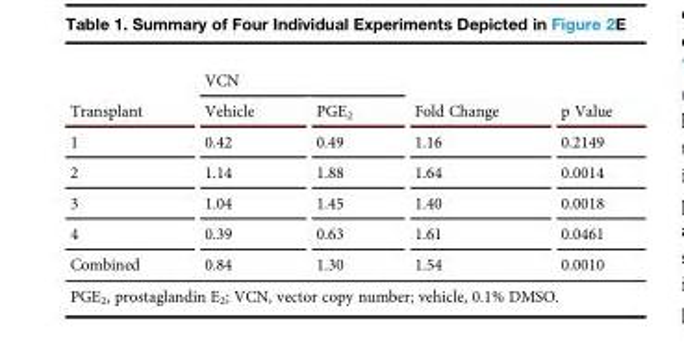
<table><thead><tr><td rowspan="2">Transplant</td><td colspan="2">VCN</td><td rowspan="2">Fold Change</td><td rowspan="2">p Value</td></tr><tr><td>Vehicle</td><td>PGE<sub>2</sub></td></tr></thead><tbody><tr><td>1</td><td>0.42</td><td>0.49</td><td>1.16</td><td>0.2149</td></tr><tr><td>2</td><td>1.14</td><td>1.88</td><td>1.64</td><td>0.0014</td></tr><tr><td>3</td><td>1.04</td><td>1.45</td><td>1.40</td><td>0.0018</td></tr><tr><td>4</td><td>0.39</td><td>0.63</td><td>1.61</td><td>0.0461</td></tr><tr><td>Combined</td><td>0.84</td><td>1.30</td><td>1.54</td><td>0.0010</td></tr></tbody></table>